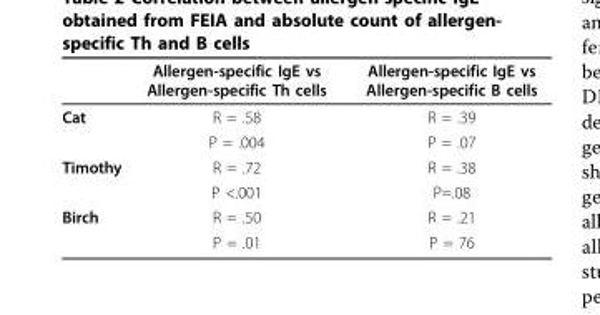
<table><thead><tr><td></td><td>Allergen-specific IgE vs Allergen-specific Th cells</td><td>Allergen-specific IgE vs Allergen-specific B cells</td></tr></thead><tbody><tr><td rowspan="2">Cat</td><td>R = .58</td><td>R = .39</td></tr><tr><td>P = .004</td><td>P = .07</td></tr><tr><td rowspan="2">Timothy</td><td>R = .72</td><td>R = .38</td></tr><tr><td>P &lt;.001</td><td>P=.08</td></tr><tr><td rowspan="2">Birch</td><td>R = .50</td><td>R = .21</td></tr><tr><td>P = .01</td><td>P = 76</td></tr></tbody></table>